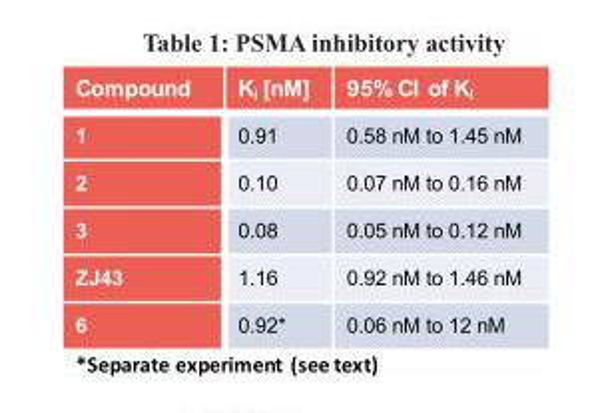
<table><thead><tr><td>Compound</td><td>Ki [nM]</td><td>95% CI of Ki</td></tr></thead><tbody><tr><td>1</td><td>0.91</td><td>0.58 nM to 1.45 nM</td></tr><tr><td>2</td><td>0.10</td><td>0.07 nM to 0.16 nM</td></tr><tr><td>3</td><td>0.08</td><td>0.05 nM to 0.12 nM</td></tr><tr><td>ZJ43</td><td>1.16</td><td>0.92 nM to 1.46 nM</td></tr><tr><td>6</td><td>0.92*</td><td>0.06 nM to 12 nM</td></tr></tbody></table>